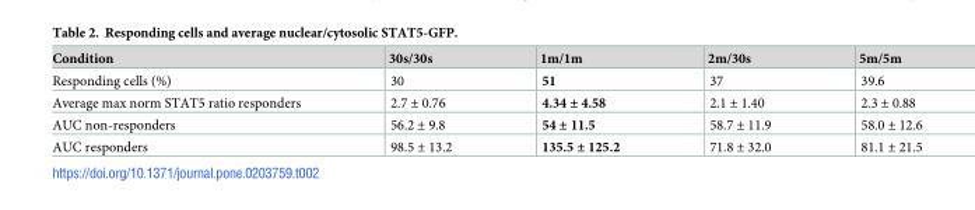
<table><thead><tr><td>Condition</td><td>30s/30s</td><td>1m/1m</td><td>2m/30s</td><td>5m/5m</td></tr></thead><tbody><tr><td>Responding cells (%)</td><td>30</td><td>51</td><td>37</td><td>39.6</td></tr><tr><td>Average max norm STAT5 ratio responders</td><td>2.7 ± 0.76</td><td>4.34 ± 4.58</td><td>2.1 ± 1.40</td><td>2.3 ± 0.88</td></tr><tr><td>AUC non-responders</td><td>56.2 ± 9.8</td><td>54 ± 11.5</td><td>58.7 ± 11.9</td><td>58.0 ± 12.6</td></tr><tr><td>AUC responders</td><td>98.5 ± 13.2</td><td>135.5 ± 125.2</td><td>71.8 ± 32.0</td><td>81.1 ± 21.5</td></tr></tbody></table>